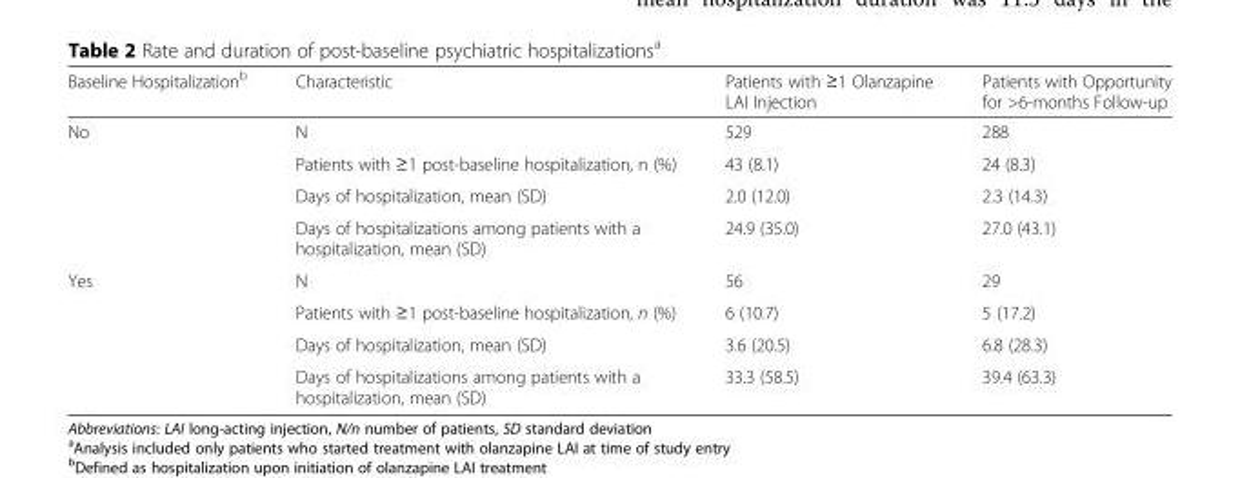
<table><thead><tr><td>Baseline Hospitalization<sup>b</sup></td><td>Characteristic</td><td>Patients with ≥1 Olanzapine LAI Injection</td><td>Patients with Opportunity for &gt;6-months Follow-up</td></tr></thead><tbody><tr><td rowspan="4">No</td><td>N</td><td>529</td><td>288</td></tr><tr><td>Patients with ≥1 post-baseline hospitalization, n (%)</td><td>43 (8.1)</td><td>24 (8.3)</td></tr><tr><td>Days of hospitalization, mean (SD)</td><td>2.0 (12.0)</td><td>2.3 (14.3)</td></tr><tr><td>Days of hospitalizations among patients with a hospitalization, mean (SD)</td><td>24.9 (35.0)</td><td>27.0 (43.1)</td></tr><tr><td rowspan="4">Yes</td><td>N</td><td>56</td><td>29</td></tr><tr><td>Patients with ≥1 post-baseline hospitalization, n (%)</td><td>6 (10.7)</td><td>5 (17.2)</td></tr><tr><td>Days of hospitalization, mean (SD)</td><td>3.6 (20.5)</td><td>6.8 (28.3)</td></tr><tr><td>Days of hospitalizations among patients with a hospitalization, mean (SD)</td><td>33.3 (58.5)</td><td>39.4 (63.3)</td></tr></tbody></table>